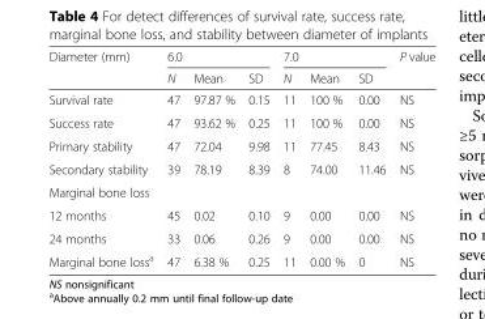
<table><thead><tr><td rowspan="2">Diameter (mm)</td><td colspan="3">6.0</td><td colspan="3">7.0</td><td rowspan="2">P value</td></tr><tr><td>N</td><td>Mean</td><td>SD</td><td>N</td><td>Mean</td><td>SD</td></tr></thead><tbody><tr><td>Survival rate</td><td>47</td><td>97.87 %</td><td>0.15</td><td>11</td><td>100 %</td><td>0.00</td><td>NS</td></tr><tr><td>Success rate</td><td>47</td><td>93.62 %</td><td>0.25</td><td>11</td><td>100 %</td><td>0.00</td><td>NS</td></tr><tr><td>Primary stability</td><td>47</td><td>72.04</td><td>9.98</td><td>11</td><td>77.45</td><td>8.43</td><td>NS</td></tr><tr><td>Secondary stability</td><td>39</td><td>78.19</td><td>8.39</td><td>8</td><td>74.00</td><td>11.46</td><td>NS</td></tr><tr><td colspan="8">Marginal bone loss</td></tr><tr><td>12 months</td><td>45</td><td>0.02</td><td>0.10</td><td>9</td><td>0.00</td><td>0.00</td><td>NS</td></tr><tr><td>24 months</td><td>33</td><td>0.06</td><td>0.26</td><td>9</td><td>0.00</td><td>0.00</td><td>NS</td></tr><tr><td>Marginal bone loss<sup>a</sup></td><td>47</td><td>6.38 %</td><td>0.25</td><td>11</td><td>0.00 %</td><td>0</td><td>NS</td></tr></tbody></table>